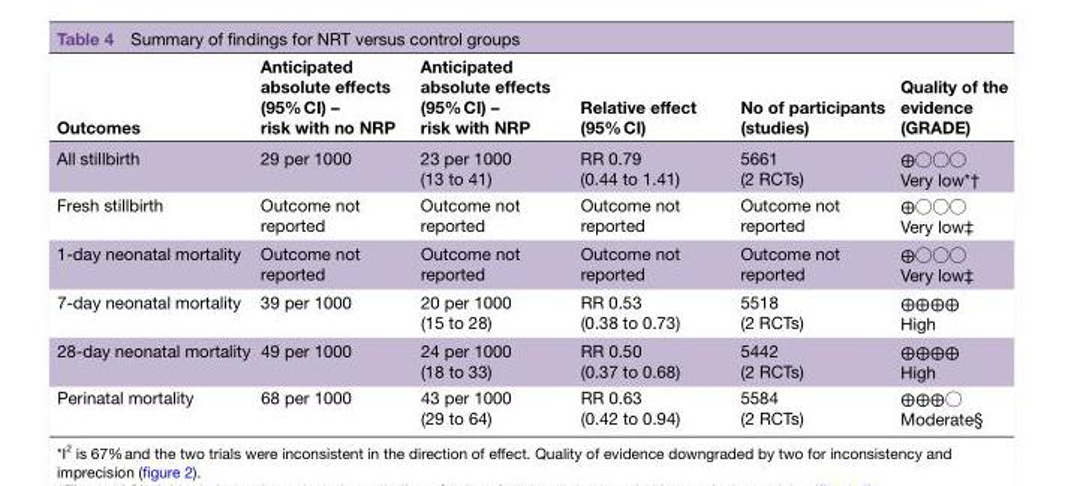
<table><thead><tr><td>Outcomes</td><td>Anticipated absolute effects (95% CI) – risk with no NRP</td><td>Anticipated absolute effects (95% CI) – risk with NRP</td><td>Relative effect (95% CI)</td><td>No of participants (studies)</td><td>Quality of the evidence (GRADE)</td></tr></thead><tbody><tr><td>All stillbirth</td><td>29 per 1000</td><td>23 per 1000 (13 to 41)</td><td>RR 0.79 (0.44 to 1.41)</td><td>5661 (2 RCTs)</td><td>⨁◯◯◯ Very low*†</td></tr><tr><td>Fresh stillbirth</td><td>Outcome not reported</td><td>Outcome not reported</td><td>Outcome not reported</td><td>Outcome not reported</td><td>⨁◯◯◯ Very low‡</td></tr><tr><td>1-day neonatal mortality</td><td>Outcome not reported</td><td>Outcome not reported</td><td>Outcome not reported</td><td>Outcome not reported</td><td>⨁◯◯◯ Very low‡</td></tr><tr><td>7-day neonatal mortality</td><td>39 per 1000</td><td>20 per 1000 (15 to 28)</td><td>RR 0.53 (0.38 to 0.73)</td><td>5518 (2 RCTs)</td><td>⨁⨁⨁⨁ High</td></tr><tr><td>28-day neonatal mortality</td><td>49 per 1000</td><td>24 per 1000 (18 to 33)</td><td>RR 0.50 (0.37 to 0.68)</td><td>5442 (2 RCTs)</td><td>⨁⨁⨁⨁ High</td></tr><tr><td>Perinatal mortality</td><td>68 per 1000</td><td>43 per 1000 (29 to 64)</td><td>RR 0.63 (0.42 to 0.94)</td><td>5584 (2 RCTs)</td><td>⨁⨁⨁◯ Moderate§</td></tr></tbody></table>